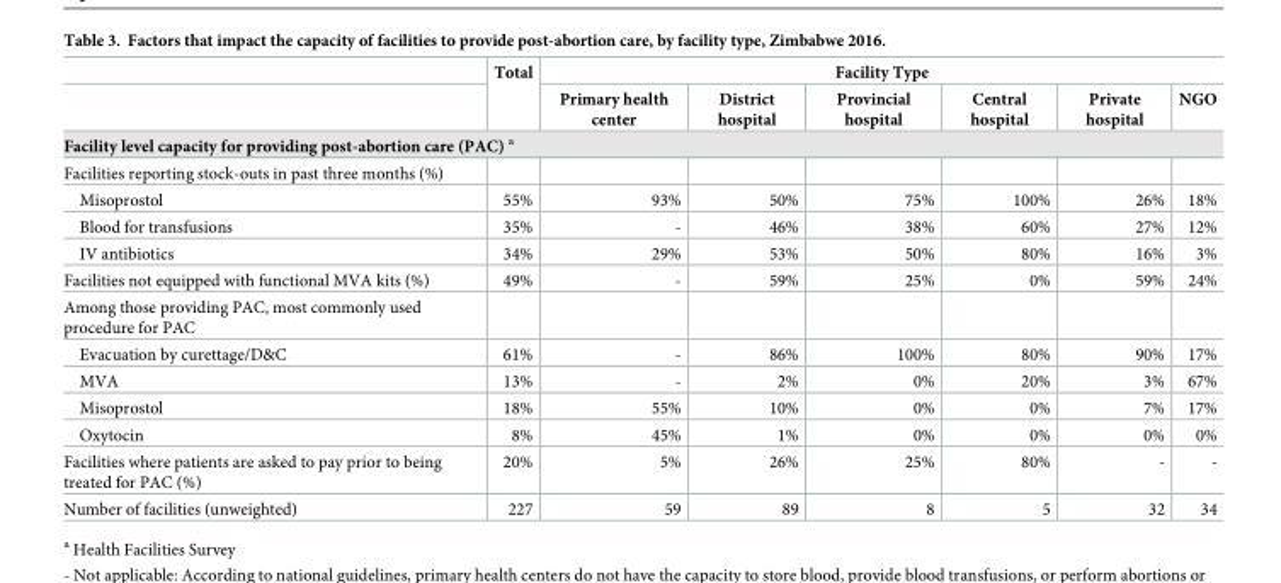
<table><thead><tr><td rowspan="2"></td><td rowspan="2">Total</td><td colspan="6">Facility Type</td></tr><tr><td>Primary health center</td><td>District hospital</td><td>Provincial hospital</td><td>Central hospital</td><td>Private hospital</td><td>NGO</td></tr></thead><tbody><tr><td colspan="8">Facility level capacity for providing post-abortion care (PAC) <sup>a</sup></td></tr><tr><td colspan="8">Facilities reporting stock-outs in past three months (%)</td></tr><tr><td>Misoprostol</td><td>55%</td><td>93%</td><td>50%</td><td>75%</td><td>100%</td><td>26%</td><td>18%</td></tr><tr><td>Blood for transfusions</td><td>35%</td><td>-</td><td>46%</td><td>38%</td><td>60%</td><td>27%</td><td>12%</td></tr><tr><td>IV antibiotics</td><td>34%</td><td>29%</td><td>53%</td><td>50%</td><td>80%</td><td>16%</td><td>3%</td></tr><tr><td>Facilities not equipped with functional MVA kits (%)</td><td>49%</td><td>-</td><td>59%</td><td>25%</td><td>0%</td><td>59%</td><td>24%</td></tr><tr><td colspan="8">Among those providing PAC, most commonly used procedure for PAC</td></tr><tr><td>Evacuation by curettage/D&amp;C</td><td>61%</td><td>-</td><td>86%</td><td>100%</td><td>80%</td><td>90%</td><td>17%</td></tr><tr><td>MVA</td><td>13%</td><td>-</td><td>2%</td><td>0%</td><td>20%</td><td>3%</td><td>67%</td></tr><tr><td>Misoprostol</td><td>18%</td><td>55%</td><td>10%</td><td>0%</td><td>0%</td><td>7%</td><td>17%</td></tr><tr><td>Oxytocin</td><td>8%</td><td>45%</td><td>1%</td><td>0%</td><td>0%</td><td>0%</td><td>0%</td></tr><tr><td>Facilities where patients are asked to pay prior to being treated for PAC (%)</td><td>20%</td><td>5%</td><td>26%</td><td>25%</td><td>80%</td><td>-</td><td>-</td></tr><tr><td>Number of facilities (unweighted)</td><td>227</td><td>59</td><td>89</td><td>8</td><td>5</td><td>32</td><td>34</td></tr></tbody></table>